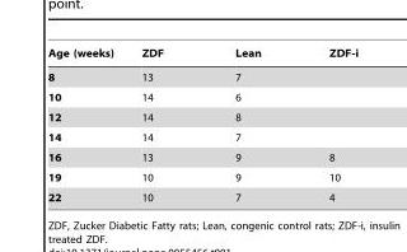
<table><thead><tr><td>Age (weeks)</td><td>ZDF</td><td>Lean</td><td>ZDF-i</td></tr></thead><tbody><tr><td>8</td><td>13</td><td>7</td><td></td></tr><tr><td>10</td><td>14</td><td>6</td><td></td></tr><tr><td>12</td><td>14</td><td>8</td><td></td></tr><tr><td>14</td><td>14</td><td>7</td><td></td></tr><tr><td>16</td><td>13</td><td>9</td><td>8</td></tr><tr><td>19</td><td>10</td><td>9</td><td>10</td></tr><tr><td>22</td><td>10</td><td>7</td><td>4</td></tr></tbody></table>